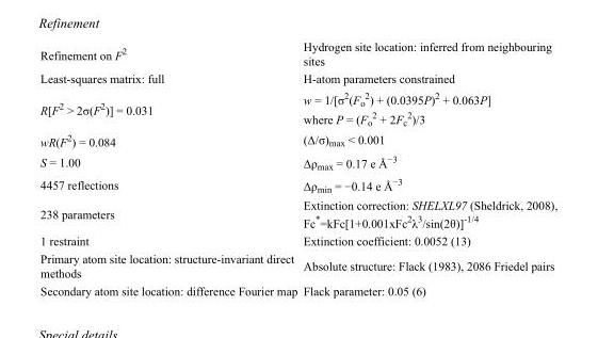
<table><tbody><tr><td>Refinement on F<sup>2</sup></td><td>Hydrogen site location: inferred from neighbouring sites</td></tr><tr><td>Least-squares matrix: full</td><td>H-atom parameters constrained</td></tr><tr><td>R[F<sup>2</sup> &gt; 2σ(F<sup>2</sup>)] = 0.031</td><td>w = 1/[σ<sup>2</sup>(F<sub>o</sub> <sup>2</sup>) + (0.0395P)<sup>2</sup> + 0.063P] where P = (F<sub>o</sub> <sup>2</sup> + 2F<sub>c</sub> <sup>2</sup>)/3</td></tr><tr><td>wR(F<sup>2</sup>) = 0.084</td><td>(Δ/σ)<sub>max</sub> &lt; 0.001</td></tr><tr><td>S = 1.00</td><td>Δρ<sub>max</sub> = 0.17 e Å<sup>−3</sup></td></tr><tr><td>4457 reflections</td><td>Δρ<sub>min</sub> = −0.14 e Å<sup>−3</sup></td></tr><tr><td>238 parameters</td><td>Extinction correction: SHELXL97 (Sheldrick, 2008), Fc*=kFc[1+0.001xFc<sup>2</sup>λ<sup>3</sup>/sin(2θ)]<sup>-1/4</sup></td></tr><tr><td>1 restraint</td><td>Extinction coefficient: 0.0052 (13)</td></tr><tr><td>Primary atom site location: structure-invariant direct methods</td><td>Absolute structure: Flack (1983), 2086 Friedel pairs</td></tr><tr><td>Secondary atom site location: difference Fourier map</td><td>Flack parameter: 0.05 (6)</td></tr></tbody></table>